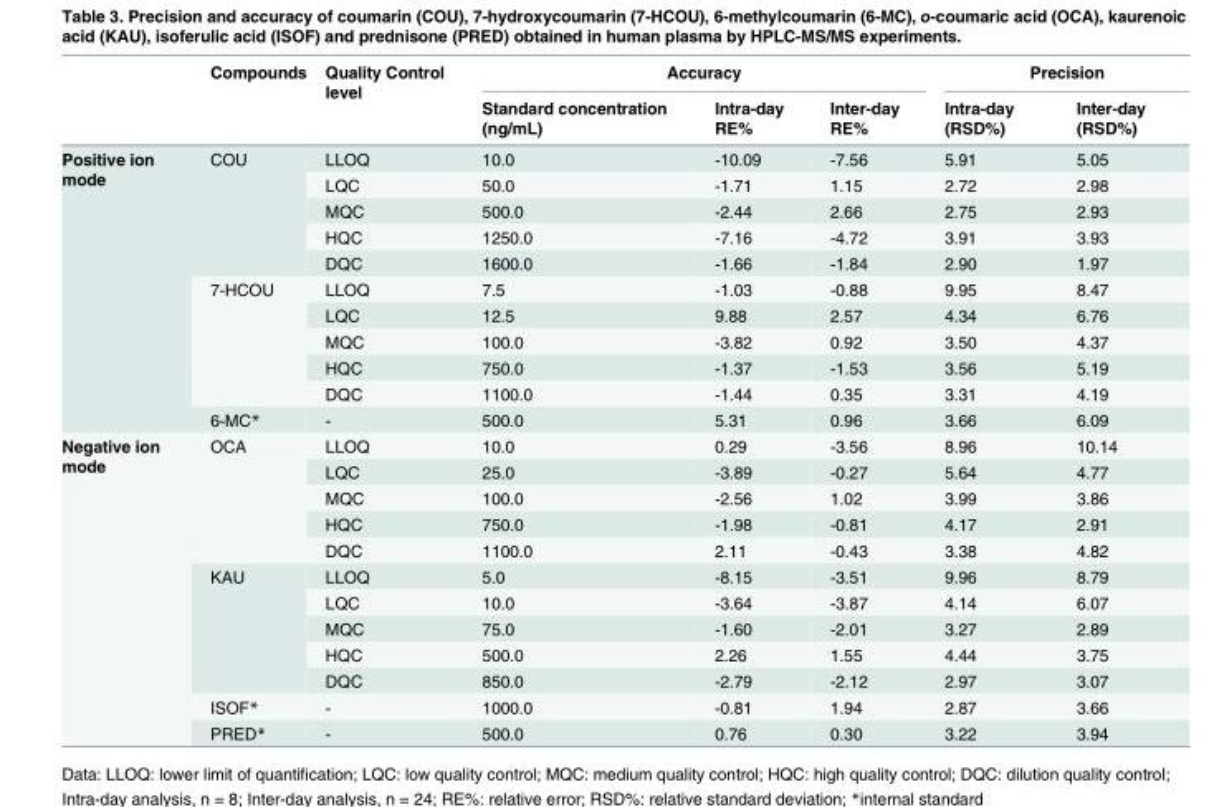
<table><thead><tr><td rowspan="2"></td><td rowspan="2">Compounds</td><td rowspan="2">Quality Control level</td><td colspan="3">Accuracy</td><td colspan="2">Precision</td></tr><tr><td>Standard concentration (ng/mL)</td><td>Intra-day RE%</td><td>Inter-day RE%</td><td>Intra-day (RSD%)</td><td>Inter-day (RSD%)</td></tr></thead><tbody><tr><td rowspan="11">Positive ion mode</td><td rowspan="5">COU</td><td>LLOQ</td><td>10.0</td><td>-10.09</td><td>-7.56</td><td>5.91</td><td>5.05</td></tr><tr><td>LQC</td><td>50.0</td><td>-1.71</td><td>1.15</td><td>2.72</td><td>2.98</td></tr><tr><td>MQC</td><td>500.0</td><td>-2.44</td><td>2.66</td><td>2.75</td><td>2.93</td></tr><tr><td>HQC</td><td>1250.0</td><td>-7.16</td><td>-4.72</td><td>3.91</td><td>3.93</td></tr><tr><td>DQC</td><td>1600.0</td><td>-1.66</td><td>-1.84</td><td>2.90</td><td>1.97</td></tr><tr><td rowspan="5">7-HCOU</td><td>LLOQ</td><td>7.5</td><td>-1.03</td><td>-0.88</td><td>9.95</td><td>8.47</td></tr><tr><td>LQC</td><td>12.5</td><td>9.88</td><td>2.57</td><td>4.34</td><td>6.76</td></tr><tr><td>MQC</td><td>100.0</td><td>-3.82</td><td>0.92</td><td>3.50</td><td>4.37</td></tr><tr><td>HQC</td><td>750.0</td><td>-1.37</td><td>-1.53</td><td>3.56</td><td>5.19</td></tr><tr><td>DQC</td><td>1100.0</td><td>-1.44</td><td>0.35</td><td>3.31</td><td>4.19</td></tr><tr><td>6-MC*</td><td>-</td><td>500.0</td><td>5.31</td><td>0.96</td><td>3.66</td><td>6.09</td></tr><tr><td rowspan="12">Negative ion mode</td><td rowspan="5">OCA</td><td>LLOQ</td><td>10.0</td><td>0.29</td><td>-3.56</td><td>8.96</td><td>10.14</td></tr><tr><td>LQC</td><td>25.0</td><td>-3.89</td><td>-0.27</td><td>5.64</td><td>4.77</td></tr><tr><td>MQC</td><td>100.0</td><td>-2.56</td><td>1.02</td><td>3.99</td><td>3.86</td></tr><tr><td>HQC</td><td>750.0</td><td>-1.98</td><td>-0.81</td><td>4.17</td><td>2.91</td></tr><tr><td>DQC</td><td>1100.0</td><td>2.11</td><td>-0.43</td><td>3.38</td><td>4.82</td></tr><tr><td rowspan="5">KAU</td><td>LLOQ</td><td>5.0</td><td>-8.15</td><td>-3.51</td><td>9.96</td><td>8.79</td></tr><tr><td>LQC</td><td>10.0</td><td>-3.64</td><td>-3.87</td><td>4.14</td><td>6.07</td></tr><tr><td>MQC</td><td>75.0</td><td>-1.60</td><td>-2.01</td><td>3.27</td><td>2.89</td></tr><tr><td>HQC</td><td>500.0</td><td>2.26</td><td>1.55</td><td>4.44</td><td>3.75</td></tr><tr><td>DQC</td><td>850.0</td><td>-2.79</td><td>-2.12</td><td>2.97</td><td>3.07</td></tr><tr><td>ISOF*</td><td>-</td><td>1000.0</td><td>-0.81</td><td>1.94</td><td>2.87</td><td>3.66</td></tr><tr><td>PRED*</td><td>-</td><td>500.0</td><td>0.76</td><td>0.30</td><td>3.22</td><td>3.94</td></tr></tbody></table>